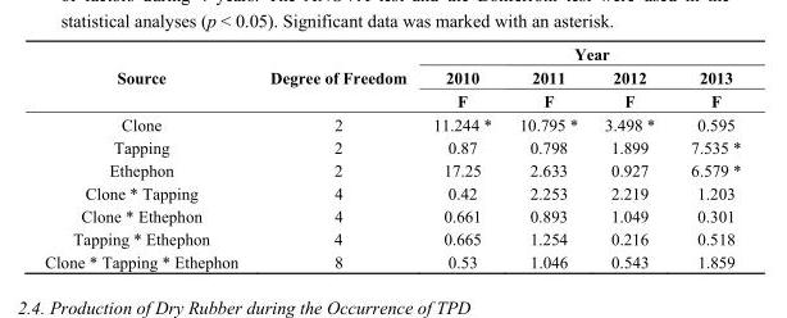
<table><thead><tr><td rowspan="3">Source</td><td rowspan="3">Degree of Freedom</td><td colspan="4">Year</td></tr><tr><td rowspan="2">2010 F</td><td rowspan="2">2011 F</td><td rowspan="2">2012 F</td><td rowspan="2">2013 F</td></tr><tr></tr></thead><tbody><tr><td>Clone</td><td>2</td><td>11.244 *</td><td>10.795 *</td><td>3.498 *</td><td>0.595</td></tr><tr><td>Tapping</td><td>2</td><td>0.87</td><td>0.798</td><td>1.899</td><td>7.535 *</td></tr><tr><td>Ethephon</td><td>2</td><td>17.25</td><td>2.633</td><td>0.927</td><td>6.579 *</td></tr><tr><td>Clone * Tapping</td><td>4</td><td>0.42</td><td>2.253</td><td>2.219</td><td>1.203</td></tr><tr><td>Clone * Ethephon</td><td>4</td><td>0.661</td><td>0.893</td><td>1.049</td><td>0.301</td></tr><tr><td>Tapping * Ethephon</td><td>4</td><td>0.665</td><td>1.254</td><td>0.216</td><td>0.518</td></tr><tr><td>Clone * Tapping * Ethephon</td><td>8</td><td>0.53</td><td>1.046</td><td>0.543</td><td>1.859</td></tr></tbody></table>